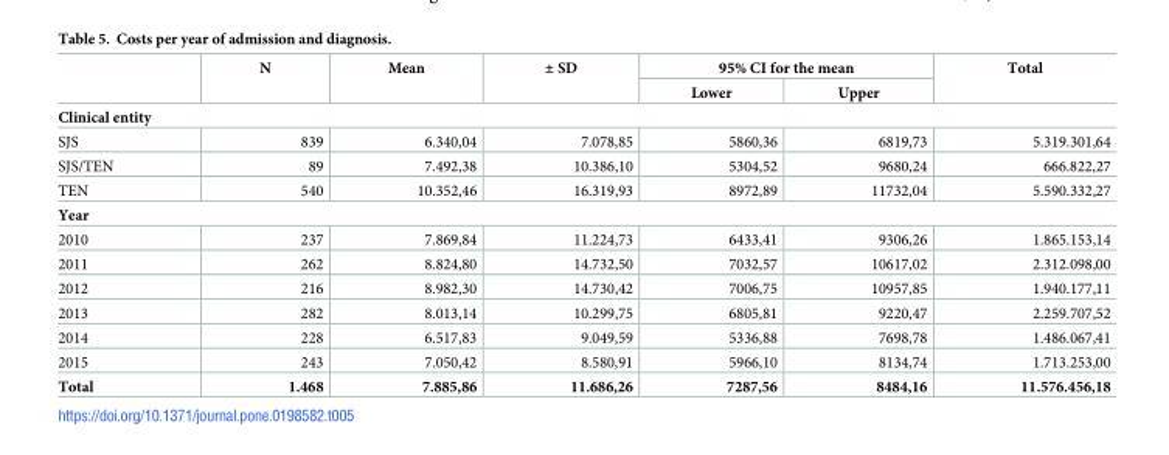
<table><thead><tr><td rowspan="2"></td><td rowspan="2">N</td><td rowspan="2">Mean</td><td rowspan="2">± SD</td><td colspan="2">95% CI for the mean</td><td rowspan="2">Total</td></tr><tr><td>Lower</td><td>Upper</td></tr></thead><tbody><tr><td colspan="7">Clinical entity</td></tr><tr><td>SJS</td><td>839</td><td>6.340,04</td><td>7.078,85</td><td>5860,36</td><td>6819,73</td><td>5.319.301,64</td></tr><tr><td>SJS/TEN</td><td>89</td><td>7.492,38</td><td>10.386,10</td><td>5304,52</td><td>9680,24</td><td>666.822,27</td></tr><tr><td>TEN</td><td>540</td><td>10.352,46</td><td>16.319,93</td><td>8972,89</td><td>11732,04</td><td>5.590.332,27</td></tr><tr><td colspan="7">Year</td></tr><tr><td>2010</td><td>237</td><td>7.869,84</td><td>11.224,73</td><td>6433,41</td><td>9306,26</td><td>1.865.153,14</td></tr><tr><td>2011</td><td>262</td><td>8.824,80</td><td>14.732,50</td><td>7032,57</td><td>10617,02</td><td>2.312.098,00</td></tr><tr><td>2012</td><td>216</td><td>8.982,30</td><td>14.730,42</td><td>7006,75</td><td>10957,85</td><td>1.940.177,11</td></tr><tr><td>2013</td><td>282</td><td>8.013,14</td><td>10.299,75</td><td>6805,81</td><td>9220,47</td><td>2.259.707,52</td></tr><tr><td>2014</td><td>228</td><td>6.517,83</td><td>9.049,59</td><td>5336,88</td><td>7698,78</td><td>1.486.067,41</td></tr><tr><td>2015</td><td>243</td><td>7.050,42</td><td>8.580,91</td><td>5966,10</td><td>8134,74</td><td>1.713.253,00</td></tr><tr><td>Total</td><td>1.468</td><td>7.885,86</td><td>11.686,26</td><td>7287,56</td><td>8484,16</td><td>11.576.456,18</td></tr></tbody></table>